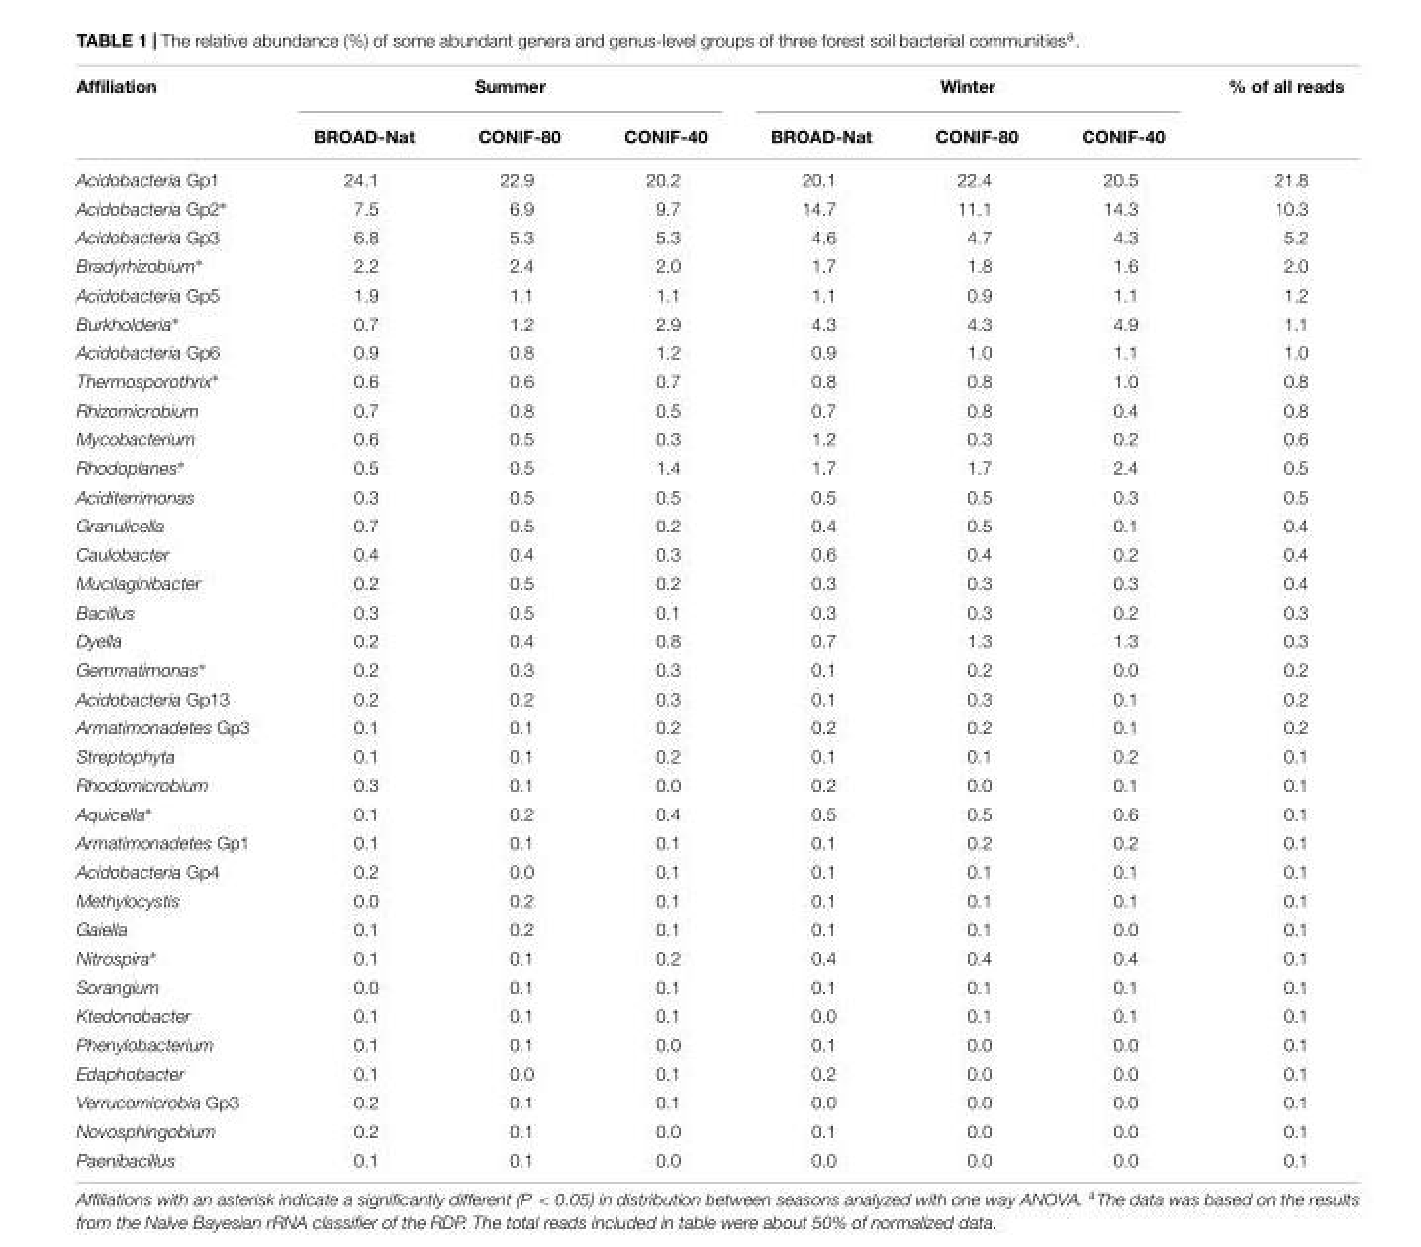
<table><thead><tr><td rowspan="2">Affiliation</td><td colspan="3">Summer</td><td colspan="3">Winter</td><td rowspan="2">% of all reads</td></tr><tr><td>BROAD-Nat</td><td>CONIF-80</td><td>CONIF-40</td><td>BROAD-Nat</td><td>CONIF-80</td><td>CONIF-40</td></tr></thead><tbody><tr><td>Acidobacteria Gp1</td><td>24.1</td><td>22.9</td><td>20.2</td><td>20.1</td><td>22.4</td><td>20.5</td><td>21.8</td></tr><tr><td>Acidobacteria Gp2∗</td><td>7.5</td><td>6.9</td><td>9.7</td><td>14.7</td><td>11.1</td><td>14.3</td><td>10.3</td></tr><tr><td>Acidobacteria Gp3</td><td>6.8</td><td>5.3</td><td>5.3</td><td>4.6</td><td>4.7</td><td>4.3</td><td>5.2</td></tr><tr><td>Bradyrhizobium∗</td><td>2.2</td><td>2.4</td><td>2.0</td><td>1.7</td><td>1.8</td><td>1.6</td><td>2.0</td></tr><tr><td>Acidobacteria Gp5</td><td>1.9</td><td>1.1</td><td>1.1</td><td>1.1</td><td>0.9</td><td>1.1</td><td>1.2</td></tr><tr><td>Burkholderia∗</td><td>0.7</td><td>1.2</td><td>2.9</td><td>4.3</td><td>4.3</td><td>4.9</td><td>1.1</td></tr><tr><td>Acidobacteria Gp6</td><td>0.9</td><td>0.8</td><td>1.2</td><td>0.9</td><td>1.0</td><td>1.1</td><td>1.0</td></tr><tr><td>Thermosporothrix∗</td><td>0.6</td><td>0.6</td><td>0.7</td><td>0.8</td><td>0.8</td><td>1.0</td><td>0.8</td></tr><tr><td>Rhizomicrobium</td><td>0.7</td><td>0.8</td><td>0.5</td><td>0.7</td><td>0.8</td><td>0.4</td><td>0.8</td></tr><tr><td>Mycobacterium</td><td>0.6</td><td>0.5</td><td>0.3</td><td>1.2</td><td>0.3</td><td>0.2</td><td>0.6</td></tr><tr><td>Rhodoplanes∗</td><td>0.5</td><td>0.5</td><td>1.4</td><td>1.7</td><td>1.7</td><td>2.4</td><td>0.5</td></tr><tr><td>Aciditerrimonas</td><td>0.3</td><td>0.5</td><td>0.5</td><td>0.5</td><td>0.5</td><td>0.3</td><td>0.5</td></tr><tr><td>Granulicella</td><td>0.7</td><td>0.5</td><td>0.2</td><td>0.4</td><td>0.5</td><td>0.1</td><td>0.4</td></tr><tr><td>Caulobacter</td><td>0.4</td><td>0.4</td><td>0.3</td><td>0.6</td><td>0.4</td><td>0.2</td><td>0.4</td></tr><tr><td>Mucilaginibacter</td><td>0.2</td><td>0.5</td><td>0.2</td><td>0.3</td><td>0.3</td><td>0.3</td><td>0.4</td></tr><tr><td>Bacillus</td><td>0.3</td><td>0.5</td><td>0.1</td><td>0.3</td><td>0.3</td><td>0.2</td><td>0.3</td></tr><tr><td>Dyella</td><td>0.2</td><td>0.4</td><td>0.8</td><td>0.7</td><td>1.3</td><td>1.3</td><td>0.3</td></tr><tr><td>Gemmatimonas∗</td><td>0.2</td><td>0.3</td><td>0.3</td><td>0.1</td><td>0.2</td><td>0.0</td><td>0.2</td></tr><tr><td>Acidobacteria Gp13</td><td>0.2</td><td>0.2</td><td>0.3</td><td>0.1</td><td>0.3</td><td>0.1</td><td>0.2</td></tr><tr><td>Armatimonadetes Gp3</td><td>0.1</td><td>0.1</td><td>0.2</td><td>0.2</td><td>0.2</td><td>0.1</td><td>0.2</td></tr><tr><td>Streptophyta</td><td>0.1</td><td>0.1</td><td>0.2</td><td>0.1</td><td>0.1</td><td>0.2</td><td>0.1</td></tr><tr><td>Rhodomicrobium</td><td>0.3</td><td>0.1</td><td>0.0</td><td>0.2</td><td>0.0</td><td>0.1</td><td>0.1</td></tr><tr><td>Aquicella∗</td><td>0.1</td><td>0.2</td><td>0.4</td><td>0.5</td><td>0.5</td><td>0.6</td><td>0.1</td></tr><tr><td>Armatimonadetes Gp1</td><td>0.1</td><td>0.1</td><td>0.1</td><td>0.1</td><td>0.2</td><td>0.2</td><td>0.1</td></tr><tr><td>Acidobacteria Gp4</td><td>0.2</td><td>0.0</td><td>0.1</td><td>0.1</td><td>0.1</td><td>0.1</td><td>0.1</td></tr><tr><td>Methylocystis</td><td>0.0</td><td>0.2</td><td>0.1</td><td>0.1</td><td>0.1</td><td>0.1</td><td>0.1</td></tr><tr><td>Gaiella</td><td>0.1</td><td>0.2</td><td>0.1</td><td>0.1</td><td>0.1</td><td>0.0</td><td>0.1</td></tr><tr><td>Nitrospira∗</td><td>0.1</td><td>0.1</td><td>0.2</td><td>0.4</td><td>0.4</td><td>0.4</td><td>0.1</td></tr><tr><td>Sorangium</td><td>0.0</td><td>0.1</td><td>0.1</td><td>0.1</td><td>0.1</td><td>0.1</td><td>0.1</td></tr><tr><td>Ktedonobacter</td><td>0.1</td><td>0.1</td><td>0.1</td><td>0.0</td><td>0.1</td><td>0.1</td><td>0.1</td></tr><tr><td>Phenylobacterium</td><td>0.1</td><td>0.1</td><td>0.0</td><td>0.1</td><td>0.0</td><td>0.0</td><td>0.1</td></tr><tr><td>Edaphobacter</td><td>0.1</td><td>0.0</td><td>0.1</td><td>0.2</td><td>0.0</td><td>0.0</td><td>0.1</td></tr><tr><td>Verrucomicrobia Gp3</td><td>0.2</td><td>0.1</td><td>0.1</td><td>0.0</td><td>0.0</td><td>0.0</td><td>0.1</td></tr><tr><td>Novosphingobium</td><td>0.2</td><td>0.1</td><td>0.0</td><td>0.1</td><td>0.0</td><td>0.0</td><td>0.1</td></tr><tr><td>Paenibacillus</td><td>0.1</td><td>0.1</td><td>0.0</td><td>0.0</td><td>0.0</td><td>0.0</td><td>0.1</td></tr></tbody></table>